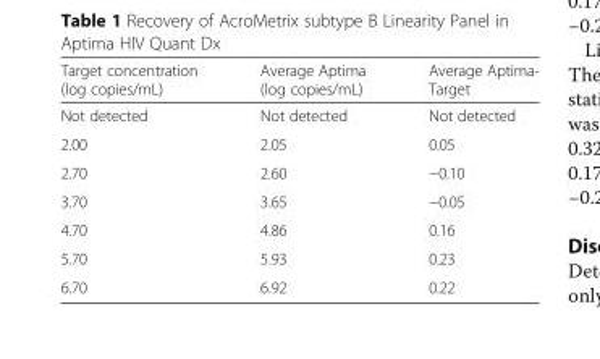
<table><thead><tr><td>Target concentration (log copies/mL)</td><td>Average Aptima (log copies/mL)</td><td>Average Aptima- Target</td></tr></thead><tbody><tr><td>Not detected</td><td>Not detected</td><td>Not detected</td></tr><tr><td>2.00</td><td>2.05</td><td>0.05</td></tr><tr><td>2.70</td><td>2.60</td><td>−0.10</td></tr><tr><td>3.70</td><td>3.65</td><td>−0.05</td></tr><tr><td>4.70</td><td>4.86</td><td>0.16</td></tr><tr><td>5.70</td><td>5.93</td><td>0.23</td></tr><tr><td>6.70</td><td>6.92</td><td>0.22</td></tr></tbody></table>